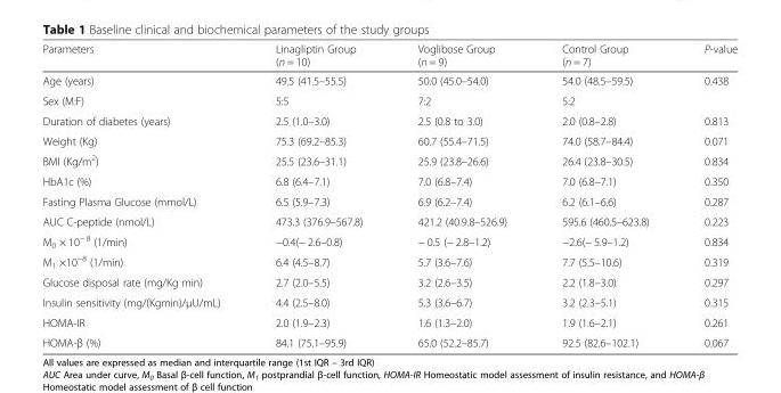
<table><thead><tr><td>Parameters</td><td>Linagliptin Group (n = 10)</td><td>Voglibose Group (n = 9)</td><td>Control Group (n = 7)</td><td>P-value</td></tr></thead><tbody><tr><td>Age (years)</td><td>49.5 (41.5–55.5)</td><td>50.0 (45.0–54.0)</td><td>54.0 (48.5–59.5)</td><td>0.438</td></tr><tr><td>Sex (M:F)</td><td>5:5</td><td>7:2</td><td>5:2</td><td></td></tr><tr><td>Duration of diabetes (years)</td><td>2.5 (1.0–3.0)</td><td>2.5 (0.8 to 3.0)</td><td>2.0 (0.8–2.8)</td><td>0.813</td></tr><tr><td>Weight (Kg)</td><td>75.3 (69.2–85.3)</td><td>60.7 (55.4–71.5)</td><td>74.0 (58.7–84.4)</td><td>0.071</td></tr><tr><td>BMI (Kg/m<sup>2</sup>)</td><td>25.5 (23.6–31.1)</td><td>25.9 (23.8–26.6)</td><td>26.4 (23.8–30.5)</td><td>0.834</td></tr><tr><td>HbA1c (%)</td><td>6.8 (6.4–7.1)</td><td>7.0 (6.8–7.4)</td><td>7.0 (6.8–7.1)</td><td>0.350</td></tr><tr><td>Fasting Plasma Glucose (mmol/L)</td><td>6.5 (5.9–7.3)</td><td>6.9 (6.2–7.4)</td><td>6.2 (6.1–6.6)</td><td>0.287</td></tr><tr><td>AUC C-peptide (nmol/L)</td><td>473.3 (376.9–567.8)</td><td>421.2 (40.9.8–526.9)</td><td>595.6 (460.5–623.8)</td><td>0.223</td></tr><tr><td>M<sub>0</sub> × 10<sup>− 8</sup> (1/min)</td><td>−0.4(− 2.6–0.8)</td><td>− 0.5 (− 2.8–1.2)</td><td>−2.6(− 5.9–1.2)</td><td>0.834</td></tr><tr><td>M<sub>1</sub> ×10<sup>−8</sup> (1/min)</td><td>6.4 (4.5–8.7)</td><td>5.7 (3.6–7.6)</td><td>7.7 (5.5–10.6)</td><td>0.319</td></tr><tr><td>Glucose disposal rate (mg/Kg min)</td><td>2.7 (2.0–5.5)</td><td>3.2 (2.6–3.5)</td><td>2.2 (1.8–3.0)</td><td>0.297</td></tr><tr><td>Insulin sensitivity (mg/(Kgmin)/μU/mL)</td><td>4.4 (2.5–8.0)</td><td>5.3 (3.6–6.7)</td><td>3.2 (2.3–5.1)</td><td>0.315</td></tr><tr><td>HOMA-IR</td><td>2.0 (1.9–2.3)</td><td>1.6 (1.3–2.0)</td><td>1.9 (1.6–2.1)</td><td>0.261</td></tr><tr><td>HOMA-β (%)</td><td>84.1 (75.1–95.9)</td><td>65.0 (52.2–85.7)</td><td>92.5 (82.6–102.1)</td><td>0.067</td></tr></tbody></table>